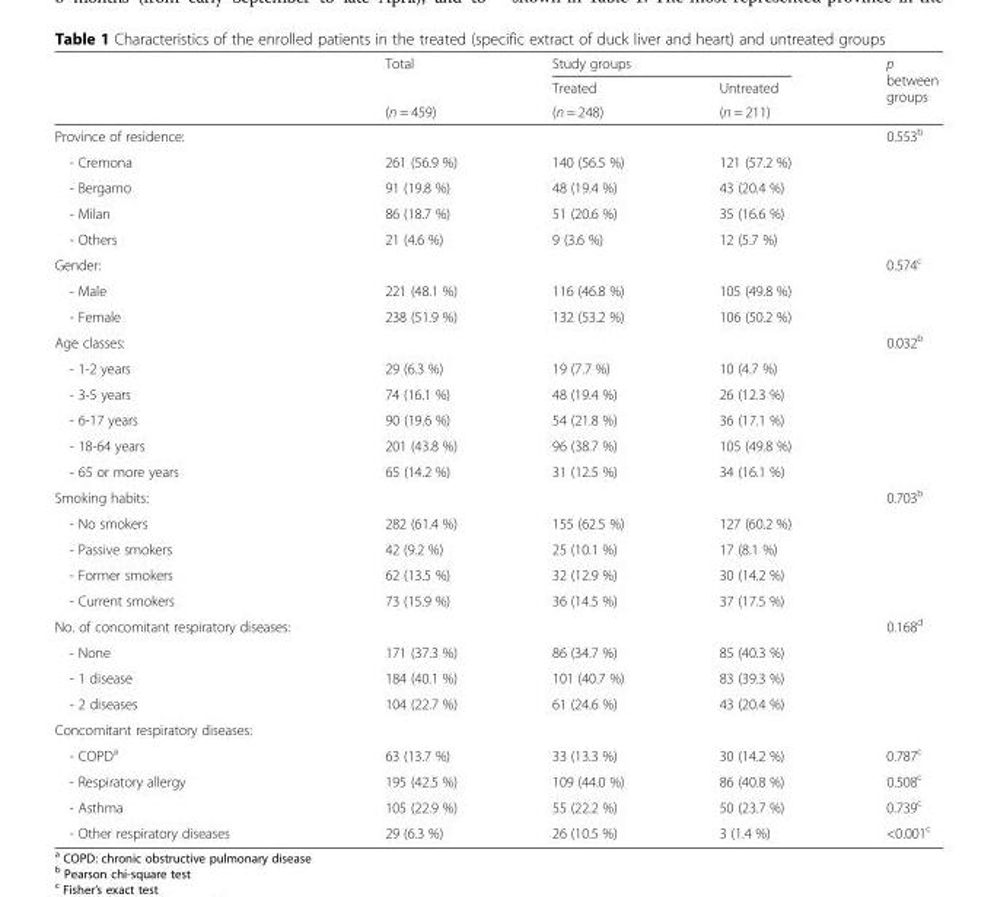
<table><thead><tr><td rowspan="3"></td><td rowspan="3">Total (n = 459)</td><td colspan="2">Study groups</td><td rowspan="3">p between groups</td></tr><tr><td rowspan="2">Treated (n = 248)</td><td rowspan="2">Untreated (n = 211)</td></tr><tr></tr></thead><tbody><tr><td colspan="4">Province of residence:</td><td rowspan="5">0.553<sup>b</sup></td></tr><tr><td>- Cremona</td><td>261 (56.9 %)</td><td>140 (56.5 %)</td><td>121 (57.2 %)</td></tr><tr><td>- Bergamo</td><td>91 (19.8 %)</td><td>48 (19.4 %)</td><td>43 (20.4 %)</td></tr><tr><td>- Milan</td><td>86 (18.7 %)</td><td>51 (20.6 %)</td><td>35 (16.6 %)</td></tr><tr><td>- Others</td><td>21 (4.6 %)</td><td>9 (3.6 %)</td><td>12 (5.7 %)</td></tr><tr><td colspan="4">Gender:</td><td rowspan="3">0.574<sup>c</sup></td></tr><tr><td>- Male</td><td>221 (48.1 %)</td><td>116 (46.8 %)</td><td>105 (49.8 %)</td></tr><tr><td>- Female</td><td>238 (51.9 %)</td><td>132 (53.2 %)</td><td>106 (50.2 %)</td></tr><tr><td colspan="4">Age classes:</td><td rowspan="6">0.032<sup>b</sup></td></tr><tr><td>- 1-2 years</td><td>29 (6.3 %)</td><td>19 (7.7 %)</td><td>10 (4.7 %)</td></tr><tr><td>- 3-5 years</td><td>74 (16.1 %)</td><td>48 (19.4 %)</td><td>26 (12.3 %)</td></tr><tr><td>- 6-17 years</td><td>90 (19.6 %)</td><td>54 (21.8 %)</td><td>36 (17.1 %)</td></tr><tr><td>- 18-64 years</td><td>201 (43.8 %)</td><td>96 (38.7 %)</td><td>105 (49.8 %)</td></tr><tr><td>- 65 or more years</td><td>65 (14.2 %)</td><td>31 (12.5 %)</td><td>34 (16.1 %)</td></tr><tr><td colspan="4">Smoking habits:</td><td rowspan="5">0.703<sup>b</sup></td></tr><tr><td>- No smokers</td><td>282 (61.4 %)</td><td>155 (62.5 %)</td><td>127 (60.2 %)</td></tr><tr><td>- Passive smokers</td><td>42 (9.2 %)</td><td>25 (10.1 %)</td><td>17 (8.1 %)</td></tr><tr><td>- Former smokers</td><td>62 (13.5 %)</td><td>32 (12.9 %)</td><td>30 (14.2 %)</td></tr><tr><td>- Current smokers</td><td>73 (15.9 %)</td><td>36 (14.5 %)</td><td>37 (17.5 %)</td></tr><tr><td colspan="4">No. of concomitant respiratory diseases:</td><td rowspan="4">0.168<sup>d</sup></td></tr><tr><td>- None</td><td>171 (37.3 %)</td><td>86 (34.7 %)</td><td>85 (40.3 %)</td></tr><tr><td>- 1 disease</td><td>184 (40.1 %)</td><td>101 (40.7 %)</td><td>83 (39.3 %)</td></tr><tr><td>- 2 diseases</td><td>104 (22.7 %)</td><td>61 (24.6 %)</td><td>43 (20.4 %)</td></tr><tr><td colspan="5">Concomitant respiratory diseases:</td></tr><tr><td>- COPD<sup>a</sup></td><td>63 (13.7 %)</td><td>33 (13.3 %)</td><td>30 (14.2 %)</td><td>0.787<sup>c</sup></td></tr><tr><td>- Respiratory allergy</td><td>195 (42.5 %)</td><td>109 (44.0 %)</td><td>86 (40.8 %)</td><td>0.508<sup>c</sup></td></tr><tr><td>- Asthma</td><td>105 (22.9 %)</td><td>55 (22.2 %)</td><td>50 (23.7 %)</td><td>0.739<sup>c</sup></td></tr><tr><td>- Other respiratory diseases</td><td>29 (6.3 %)</td><td>26 (10.5 %)</td><td>3 (1.4 %)</td><td>&lt;0.001<sup>c</sup></td></tr></tbody></table>